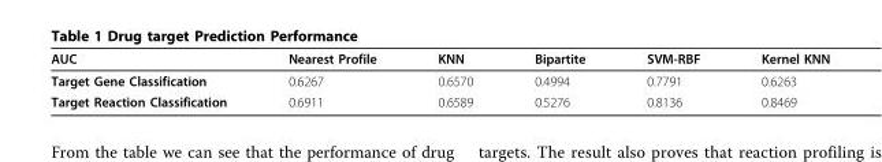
<table><thead><tr><td>AUC</td><td>Nearest Profile</td><td>KNN</td><td>Bipartite</td><td>SVM-RBF</td><td>Kernel KNN</td></tr></thead><tbody><tr><td>Target Gene Classification</td><td>0.6267</td><td>0.6570</td><td>0.4994</td><td>0.7791</td><td>0.6263</td></tr><tr><td>Target Reaction Classification</td><td>0.6911</td><td>0.6589</td><td>0.5276</td><td>0.8136</td><td>0.8469</td></tr></tbody></table>